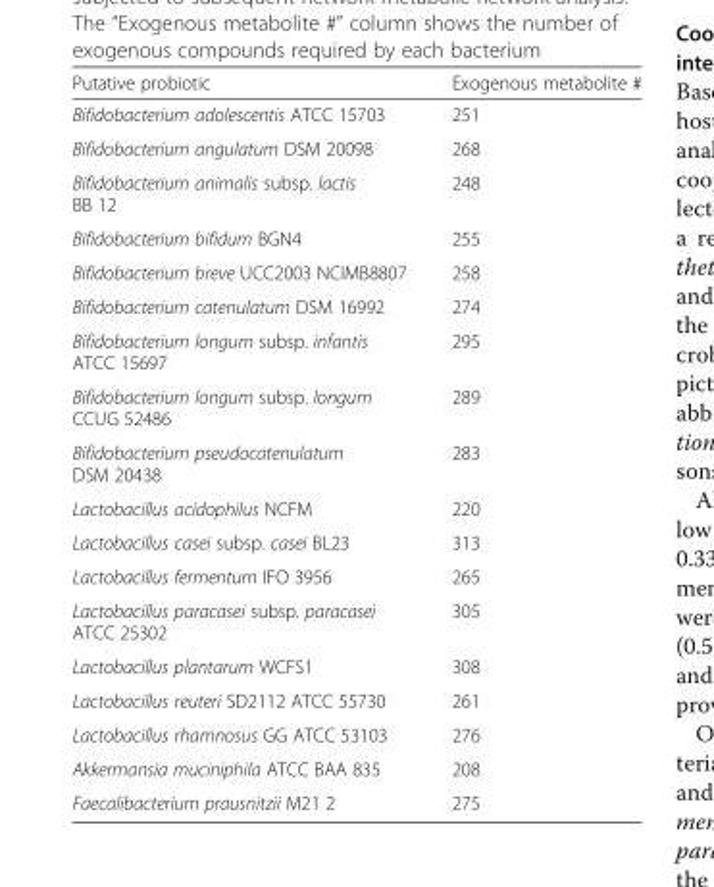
<table><thead><tr><td>Putative probiotic</td><td>Exogenous metabolite #</td></tr></thead><tbody><tr><td>Bifidobacterium adolescentis ATCC 15703</td><td>251</td></tr><tr><td>Bifidobacterium angulatum DSM 20098</td><td>268</td></tr><tr><td>Bifidobacterium animalis subsp. lactis BB 12</td><td>248</td></tr><tr><td>Bifidobacterium bifidum BGN4</td><td>255</td></tr><tr><td>Bifidobacterium breve UCC2003 NCIMB8807</td><td>258</td></tr><tr><td>Bifidobacterium catenulatum DSM 16992</td><td>274</td></tr><tr><td>Bifidobacterium longum subsp. infantis ATCC 15697</td><td>295</td></tr><tr><td>Bifidobacterium longum subsp. longum CCUG 52486</td><td>289</td></tr><tr><td>Bifidobacterium pseudocatenulatum DSM 20438</td><td>283</td></tr><tr><td>Lactobacillus acidophilus NCFM</td><td>220</td></tr><tr><td>Lactobacillus casei subsp. casei BL23</td><td>313</td></tr><tr><td>Lactobacillus fermentum IFO 3956</td><td>265</td></tr><tr><td>Lactobacillus paracasei subsp. paracasei ATCC 25302</td><td>305</td></tr><tr><td>Lactobacillus plantarum WCFS1</td><td>308</td></tr><tr><td>Lactobacillus reuteri SD2112 ATCC 55730</td><td>261</td></tr><tr><td>Lactobacillus rhamnosus GG ATCC 53103</td><td>276</td></tr><tr><td>Akkermansia muciniphila ATCC BAA 835</td><td>208</td></tr><tr><td>Faecalibacterium prausnitzii M21 2</td><td>275</td></tr></tbody></table>